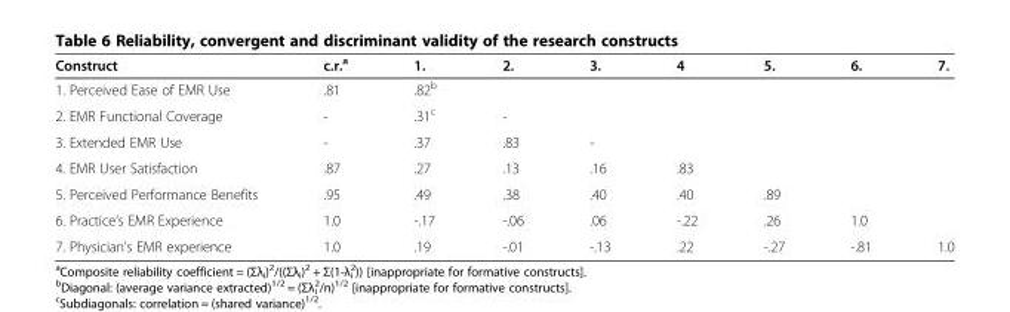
<table><thead><tr><td>Construct</td><td>c.r.<sup>a</sup></td><td>1.</td><td>2.</td><td>3.</td><td>4</td><td>5.</td><td>6.</td><td>7.</td></tr></thead><tbody><tr><td>1. Perceived Ease of EMR Use</td><td>.81</td><td>.82<sup>b</sup></td><td></td><td></td><td></td><td></td><td></td><td></td></tr><tr><td>2. EMR Functional Coverage</td><td>-</td><td>.31<sup>c</sup></td><td>-</td><td></td><td></td><td></td><td></td><td></td></tr><tr><td>3. Extended EMR Use</td><td>-</td><td>.37</td><td>.83</td><td>-</td><td></td><td></td><td></td><td></td></tr><tr><td>4. EMR User Satisfaction</td><td>.87</td><td>.27</td><td>.13</td><td>.16</td><td>.83</td><td></td><td></td><td></td></tr><tr><td>5. Perceived Performance Benefits</td><td>.95</td><td>.49</td><td>.38</td><td>.40</td><td>.40</td><td>.89</td><td></td><td></td></tr><tr><td>6. Practice’s EMR Experience</td><td>1.0</td><td>-.17</td><td>-.06</td><td>.06</td><td>-.22</td><td>.26</td><td>1.0</td><td></td></tr><tr><td>7. Physician’s EMR experience</td><td>1.0</td><td>.19</td><td>-.01</td><td>-.13</td><td>.22</td><td>-.27</td><td>-.81</td><td>1.0</td></tr></tbody></table>